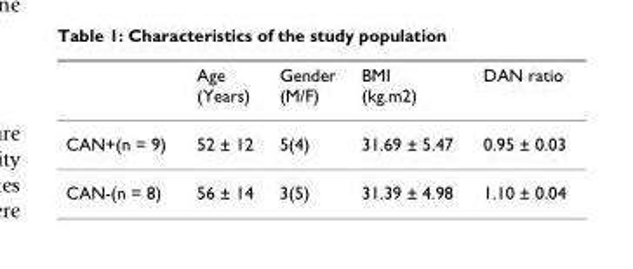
<table><thead><tr><td></td><td>Age (Years)</td><td>Gender (M/F)</td><td>BMI (kg.m2)</td><td>DAN ratio</td></tr></thead><tbody><tr><td>CAN+(n = 9)</td><td>52 ± 12</td><td>5(4)</td><td>31.69 ± 5.47</td><td>0.95 ± 0.03</td></tr><tr><td>CAN-(n = 8)</td><td>56 ± 14</td><td>3(5)</td><td>31.39 ± 4.98</td><td>1.10 ± 0.04</td></tr></tbody></table>